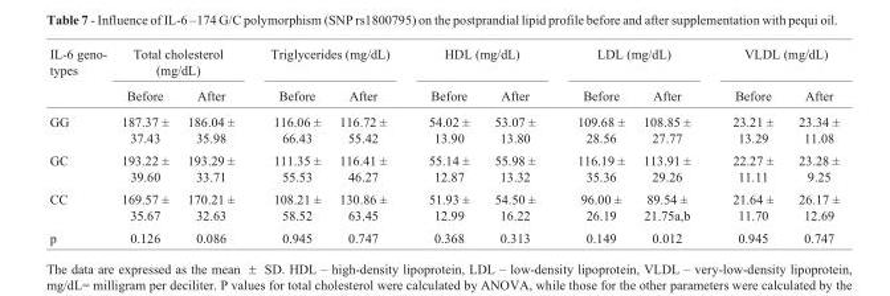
<table><thead><tr><td rowspan="2">IL-6 geno- types</td><td colspan="2">Total cholesterol (mg/dL)</td><td colspan="2">Triglycerides (mg/dL)</td><td colspan="2">HDL (mg/dL)</td><td colspan="2">LDL (mg/dL)</td><td colspan="2">VLDL (mg/dL)</td></tr><tr><td>Before</td><td>After</td><td>Before</td><td>After</td><td>Before</td><td>After</td><td>Before</td><td>After</td><td>Before</td><td>After</td></tr></thead><tbody><tr><td>GG</td><td>187.37 ± 37.43</td><td>186.04 ± 35.98</td><td>116.06 ± 66.43</td><td>116.72 ± 55.42</td><td>54.02 ± 13.90</td><td>53.07 ± 13.80</td><td>109.68 ± 28.56</td><td>108.85 ± 27.77</td><td>23.21 ± 13.29</td><td>23.34 ± 11.08</td></tr><tr><td>GC</td><td>193.22 ± 39.60</td><td>193.29 ± 33.71</td><td>111.35 ± 55.53</td><td>116.41 ± 46.27</td><td>55.14 ± 12.87</td><td>55.98 ± 13.32</td><td>116.19 ± 35.36</td><td>113.91 ± 29.26</td><td>22.27 ± 11.11</td><td>23.28 ± 9.25</td></tr><tr><td>CC</td><td>169.57 ± 35.67</td><td>170.21 ± 32.63</td><td>108.21 ± 58.52</td><td>130.86 ± 63.45</td><td>51.93 ± 12.99</td><td>54.50 ± 16.22</td><td>96.00 ± 26.19</td><td>89.54 ± 21.75a,b</td><td>21.64 ± 11.70</td><td>26.17 ± 12.69</td></tr><tr><td>p</td><td>0.126</td><td>0.086</td><td>0.945</td><td>0.747</td><td>0.368</td><td>0.313</td><td>0.149</td><td>0.012</td><td>0.945</td><td>0.747</td></tr></tbody></table>